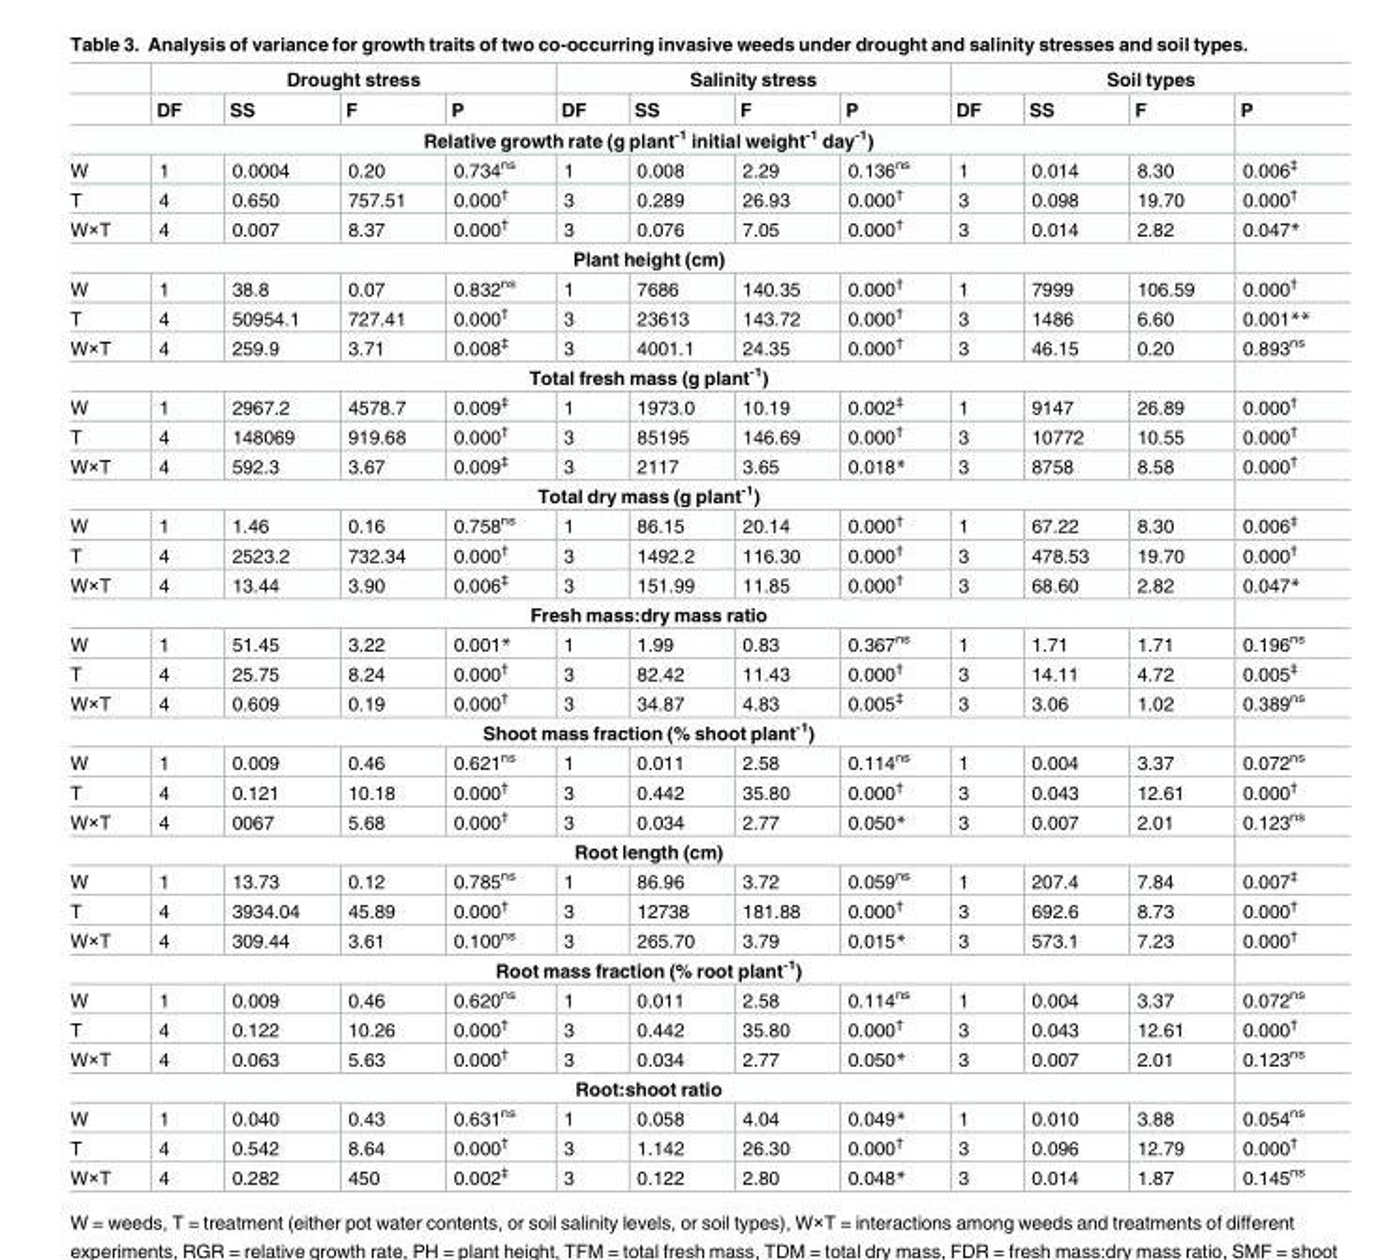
<table><thead><tr><td rowspan="2"></td><td colspan="4">Drought stress</td><td colspan="4">Salinity stress</td><td colspan="4">Soil types</td></tr><tr><td>DF</td><td>SS</td><td>F</td><td>P</td><td>DF</td><td>SS</td><td>F</td><td>P</td><td>DF</td><td>SS</td><td>F</td><td>P</td></tr></thead><tbody><tr><td colspan="13">Relative growth rate (g plant<sup>-1</sup> initial weight<sup>-1</sup> day<sup>-1</sup>)</td></tr><tr><td>W</td><td>1</td><td>0.0004</td><td>0.20</td><td>0.734<sup>ns</sup></td><td>1</td><td>0.008</td><td>2.29</td><td>0.136<sup>ns</sup></td><td>1</td><td>0.014</td><td>8.30</td><td>0.006<sup>‡</sup></td></tr><tr><td>T</td><td>4</td><td>0.650</td><td>757.51</td><td>0.000<sup>†</sup></td><td>3</td><td>0.289</td><td>26.93</td><td>0.000<sup>†</sup></td><td>3</td><td>0.098</td><td>19.70</td><td>0.000<sup>†</sup></td></tr><tr><td>W×T</td><td>4</td><td>0.007</td><td>8.37</td><td>0.000<sup>†</sup></td><td>3</td><td>0.076</td><td>7.05</td><td>0.000<sup>†</sup></td><td>3</td><td>0.014</td><td>2.82</td><td>0.047*</td></tr><tr><td colspan="13">Plant height (cm)</td></tr><tr><td>W</td><td>1</td><td>38.8</td><td>0.07</td><td>0.832<sup>ns</sup></td><td>1</td><td>7686</td><td>140.35</td><td>0.000<sup>†</sup></td><td>1</td><td>7999</td><td>106.59</td><td>0.000<sup>†</sup></td></tr><tr><td>T</td><td>4</td><td>50954.1</td><td>727.41</td><td>0.000<sup>†</sup></td><td>3</td><td>23613</td><td>143.72</td><td>0.000<sup>†</sup></td><td>3</td><td>1486</td><td>6.60</td><td>0.001**</td></tr><tr><td>W×T</td><td>4</td><td>259.9</td><td>3.71</td><td>0.008<sup>‡</sup></td><td>3</td><td>4001.1</td><td>24.35</td><td>0.000<sup>†</sup></td><td>3</td><td>46.15</td><td>0.20</td><td>0.893<sup>ns</sup></td></tr><tr><td colspan="13">Total fresh mass (g plant<sup>-1</sup>)</td></tr><tr><td>W</td><td>1</td><td>2967.2</td><td>4578.7</td><td>0.009<sup>‡</sup></td><td>1</td><td>1973.0</td><td>10.19</td><td>0.002<sup>‡</sup></td><td>1</td><td>9147</td><td>26.89</td><td>0.000<sup>†</sup></td></tr><tr><td>T</td><td>4</td><td>148069</td><td>919.68</td><td>0.000<sup>†</sup></td><td>3</td><td>85195</td><td>146.69</td><td>0.000<sup>†</sup></td><td>3</td><td>10772</td><td>10.55</td><td>0.000<sup>†</sup></td></tr><tr><td>W×T</td><td>4</td><td>592.3</td><td>3.67</td><td>0.009<sup>‡</sup></td><td>3</td><td>2117</td><td>3.65</td><td>0.018*</td><td>3</td><td>8758</td><td>8.58</td><td>0.000<sup>†</sup></td></tr><tr><td colspan="13">Total dry mass (g plant<sup>-1</sup>)</td></tr><tr><td>W</td><td>1</td><td>1.46</td><td>0.16</td><td>0.758<sup>ns</sup></td><td>1</td><td>86.15</td><td>20.14</td><td>0.000<sup>†</sup></td><td>1</td><td>67.22</td><td>8.30</td><td>0.006<sup>‡</sup></td></tr><tr><td>T</td><td>4</td><td>2523.2</td><td>732.34</td><td>0.000<sup>†</sup></td><td>3</td><td>1492.2</td><td>116.30</td><td>0.000<sup>†</sup></td><td>3</td><td>478.53</td><td>19.70</td><td>0.000<sup>†</sup></td></tr><tr><td>W×T</td><td>4</td><td>13.44</td><td>3.90</td><td>0.006<sup>‡</sup></td><td>3</td><td>151.99</td><td>11.85</td><td>0.000<sup>†</sup></td><td>3</td><td>68.60</td><td>2.82</td><td>0.047*</td></tr><tr><td colspan="13">Fresh mass:dry mass ratio</td></tr><tr><td>W</td><td>1</td><td>51.45</td><td>3.22</td><td>0.001*</td><td>1</td><td>1.99</td><td>0.83</td><td>0.367<sup>ns</sup></td><td>1</td><td>1.71</td><td>1.71</td><td>0.196<sup>ns</sup></td></tr><tr><td>T</td><td>4</td><td>25.75</td><td>8.24</td><td>0.000<sup>†</sup></td><td>3</td><td>82.42</td><td>11.43</td><td>0.000<sup>†</sup></td><td>3</td><td>14.11</td><td>4.72</td><td>0.005<sup>‡</sup></td></tr><tr><td>W×T</td><td>4</td><td>0.609</td><td>0.19</td><td>0.000<sup>†</sup></td><td>3</td><td>34.87</td><td>4.83</td><td>0.005<sup>‡</sup></td><td>3</td><td>3.06</td><td>1.02</td><td>0.389<sup>ns</sup></td></tr><tr><td colspan="13">Shoot mass fraction (% shoot plant<sup>-1</sup>)</td></tr><tr><td>W</td><td>1</td><td>0.009</td><td>0.46</td><td>0.621<sup>ns</sup></td><td>1</td><td>0.011</td><td>2.58</td><td>0.114<sup>ns</sup></td><td>1</td><td>0.004</td><td>3.37</td><td>0.072<sup>ns</sup></td></tr><tr><td>T</td><td>4</td><td>0.121</td><td>10.18</td><td>0.000<sup>†</sup></td><td>3</td><td>0.442</td><td>35.80</td><td>0.000<sup>†</sup></td><td>3</td><td>0.043</td><td>12.61</td><td>0.000<sup>†</sup></td></tr><tr><td>W×T</td><td>4</td><td>0067</td><td>5.68</td><td>0.000<sup>†</sup></td><td>3</td><td>0.034</td><td>2.77</td><td>0.050*</td><td>3</td><td>0.007</td><td>2.01</td><td>0.123<sup>ns</sup></td></tr><tr><td colspan="13">Root length (cm)</td></tr><tr><td>W</td><td>1</td><td>13.73</td><td>0.12</td><td>0.785<sup>ns</sup></td><td>1</td><td>86.96</td><td>3.72</td><td>0.059<sup>ns</sup></td><td>1</td><td>207.4</td><td>7.84</td><td>0.007<sup>‡</sup></td></tr><tr><td>T</td><td>4</td><td>3934.04</td><td>45.89</td><td>0.000<sup>†</sup></td><td>3</td><td>12738</td><td>181.88</td><td>0.000<sup>†</sup></td><td>3</td><td>692.6</td><td>8.73</td><td>0.000<sup>†</sup></td></tr><tr><td>W×T</td><td>4</td><td>309.44</td><td>3.61</td><td>0.100<sup>ns</sup></td><td>3</td><td>265.70</td><td>3.79</td><td>0.015*</td><td>3</td><td>573.1</td><td>7.23</td><td>0.000<sup>†</sup></td></tr><tr><td colspan="13">Root mass fraction (% root plant<sup>-1</sup>)</td></tr><tr><td>W</td><td>1</td><td>0.009</td><td>0.46</td><td>0.620<sup>ns</sup></td><td>1</td><td>0.011</td><td>2.58</td><td>0.114<sup>ns</sup></td><td>1</td><td>0.004</td><td>3.37</td><td>0.072<sup>ns</sup></td></tr><tr><td>T</td><td>4</td><td>0.122</td><td>10.26</td><td>0.000<sup>†</sup></td><td>3</td><td>0.442</td><td>35.80</td><td>0.000<sup>†</sup></td><td>3</td><td>0.043</td><td>12.61</td><td>0.000<sup>†</sup></td></tr><tr><td>W×T</td><td>4</td><td>0.063</td><td>5.63</td><td>0.000<sup>†</sup></td><td>3</td><td>0.034</td><td>2.77</td><td>0.050*</td><td>3</td><td>0.007</td><td>2.01</td><td>0.123<sup>ns</sup></td></tr><tr><td colspan="13">Root:shoot ratio</td></tr><tr><td>W</td><td>1</td><td>0.040</td><td>0.43</td><td>0.631<sup>ns</sup></td><td>1</td><td>0.058</td><td>4.04</td><td>0.049*</td><td>1</td><td>0.010</td><td>3.88</td><td>0.054<sup>ns</sup></td></tr><tr><td>T</td><td>4</td><td>0.542</td><td>8.64</td><td>0.000<sup>†</sup></td><td>3</td><td>1.142</td><td>26.30</td><td>0.000<sup>†</sup></td><td>3</td><td>0.096</td><td>12.79</td><td>0.000<sup>†</sup></td></tr><tr><td>W×T</td><td>4</td><td>0.282</td><td>450</td><td>0.002<sup>‡</sup></td><td>3</td><td>0.122</td><td>2.80</td><td>0.048*</td><td>3</td><td>0.014</td><td>1.87</td><td>0.145<sup>ns</sup></td></tr></tbody></table>